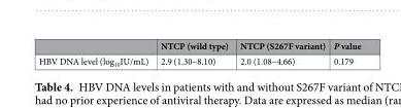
<table><thead><tr><td></td><td>NTCP (wild type)</td><td>NTCP (S267F variant)</td><td>P value</td></tr></thead><tbody><tr><td>HBV DNA level (log<sub>10</sub>IU/mL)</td><td>2.9 (1.30–8.10)</td><td>2.0 (1.08–4.66)</td><td>0.179</td></tr></tbody></table>